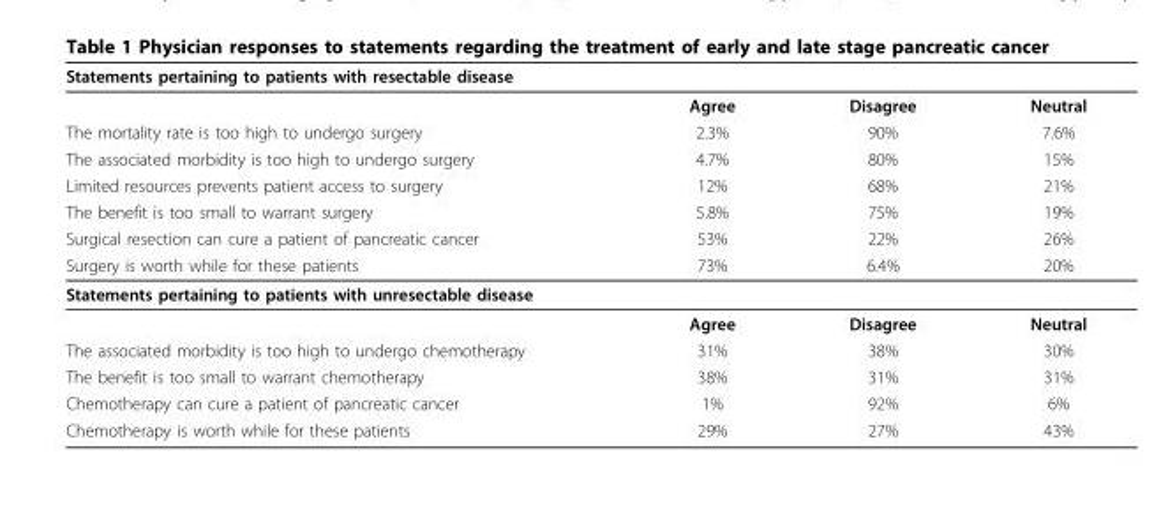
<table><thead><tr><td>Statements pertaining to patients with resectable disease</td><td></td><td></td><td></td></tr></thead><tbody><tr><td></td><td>Agree</td><td>Disagree</td><td>Neutral</td></tr><tr><td>The mortality rate is too high to undergo surgery</td><td>2.3%</td><td>90%</td><td>7.6%</td></tr><tr><td>The associated morbidity is too high to undergo surgery</td><td>4.7%</td><td>80%</td><td>15%</td></tr><tr><td>Limited resources prevents patient access to surgery</td><td>12%</td><td>68%</td><td>21%</td></tr><tr><td>The benefit is too small to warrant surgery</td><td>5.8%</td><td>75%</td><td>19%</td></tr><tr><td>Surgical resection can cure a patient of pancreatic cancer</td><td>53%</td><td>22%</td><td>26%</td></tr><tr><td>Surgery is worth while for these patients</td><td>73%</td><td>6.4%</td><td>20%</td></tr><tr><td colspan="4">Statements pertaining to patients with unresectable disease</td></tr><tr><td></td><td>Agree</td><td>Disagree</td><td>Neutral</td></tr><tr><td>The associated morbidity is too high to undergo chemotherapy</td><td>31%</td><td>38%</td><td>30%</td></tr><tr><td>The benefit is too small to warrant chemotherapy</td><td>38%</td><td>31%</td><td>31%</td></tr><tr><td>Chemotherapy can cure a patient of pancreatic cancer</td><td>1%</td><td>92%</td><td>6%</td></tr><tr><td>Chemotherapy is worth while for these patients</td><td>29%</td><td>27%</td><td>43%</td></tr></tbody></table>